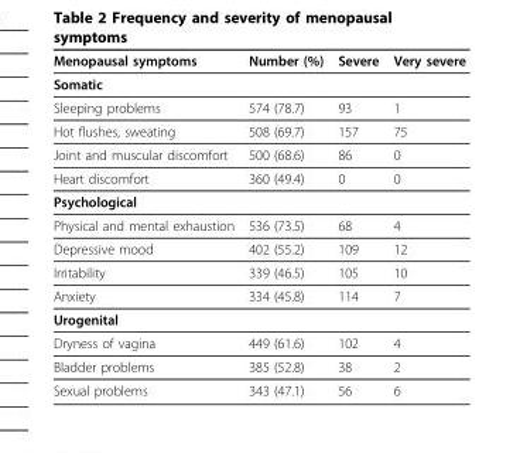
<table><thead><tr><td>Menopausal symptoms</td><td>Number (%)</td><td>Severe</td><td>Very severe</td></tr></thead><tbody><tr><td colspan="4">Somatic</td></tr><tr><td>Sleeping problems</td><td>574 (78.7)</td><td>93</td><td>1</td></tr><tr><td>Hot flushes, sweating</td><td>508 (69.7)</td><td>157</td><td>75</td></tr><tr><td>Joint and muscular discomfort</td><td>500 (68.6)</td><td>86</td><td>0</td></tr><tr><td>Heart discomfort</td><td>360 (49.4)</td><td>0</td><td>0</td></tr><tr><td colspan="4">Psychological</td></tr><tr><td>Physical and mental exhaustion</td><td>536 (73.5)</td><td>68</td><td>4</td></tr><tr><td>Depressive mood</td><td>402 (55.2)</td><td>109</td><td>12</td></tr><tr><td>Irritability</td><td>339 (46.5)</td><td>105</td><td>10</td></tr><tr><td>Anxiety</td><td>334 (45.8)</td><td>114</td><td>7</td></tr><tr><td colspan="4">Urogenital</td></tr><tr><td>Dryness of vagina</td><td>449 (61.6)</td><td>102</td><td>4</td></tr><tr><td>Bladder problems</td><td>385 (52.8)</td><td>38</td><td>2</td></tr><tr><td>Sexual problems</td><td>343 (47.1)</td><td>56</td><td>6</td></tr></tbody></table>